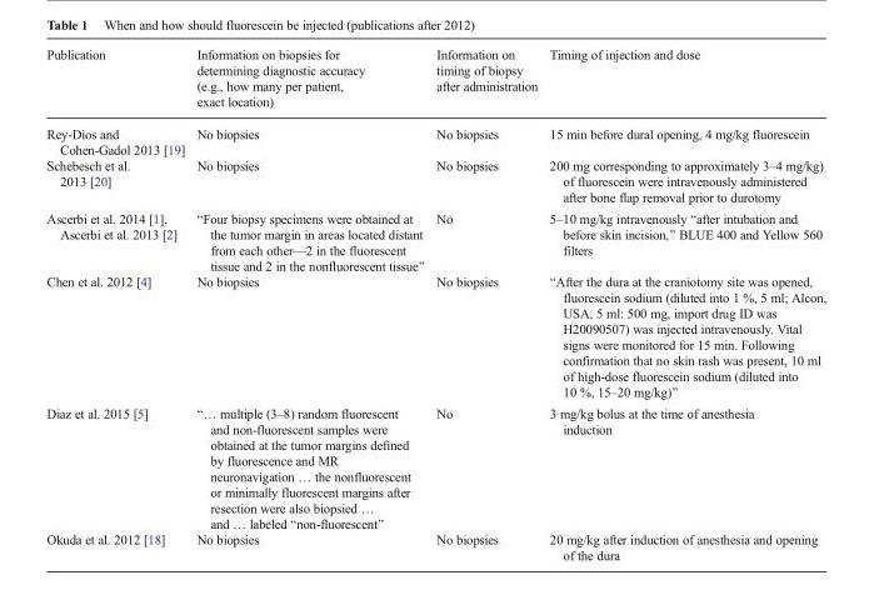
<table><thead><tr><td>Publication</td><td>Information on biopsies for determining diagnostic accuracy (e.g., how many per patient, exact location)</td><td>Information on timing of biopsy after administration</td><td>Timing of injection and dose</td></tr></thead><tbody><tr><td>Rey-Dios and Cohen-Gadol 2013 [19]</td><td>No biopsies</td><td>No biopsies</td><td>15 min before dural opening, 4 mg/kg fluorescein</td></tr><tr><td>Schebesch et al. 2013 [20]</td><td>No biopsies</td><td>No biopsies</td><td>200 mg corresponding to approximately 3–4 mg/kg) of fluorescein were intravenously administered after bone flap removal prior to durotomy</td></tr><tr><td>Ascerbi et al. 2014 [1], Ascerbi et al. 2013 [2]</td><td>“Four biopsy specimens were obtained at the tumor margin in areas located distant from each other—2 in the fluorescent tissue and 2 in the nonfluorescent tissue”</td><td>No</td><td>5–10 mg/kg intravenously “after intubation and before skin incision,” BLUE 400 and Yellow 560 filters</td></tr><tr><td>Chen et al. 2012 [4]</td><td>No biopsies</td><td>No biopsies</td><td>“After the dura at the craniotomy site was opened, fluorescein sodium (diluted into 1 %, 5 ml; Alcon, USA, 5 ml: 500 mg, import drug ID was H20090507) was injected intravenously. Vital signs were monitored for 15 min. Following confirmation that no skin rash was present, 10 ml of high-dose fluorescein sodium (diluted into 10 %, 15–20 mg/kg)”</td></tr><tr><td>Diaz et al. 2015 [5]</td><td>“… multiple (3–8) random fluorescent and non-fluorescent samples were obtained at the tumor margins defined by fluorescence and MR neuronavigation … the nonfluorescent or minimally fluorescent margins after resection were also biopsied … and … labeled “non-fluorescent”</td><td>No</td><td>3 mg/kg bolus at the time of anesthesia induction</td></tr><tr><td>Okuda et al. 2012 [18]</td><td>No biopsies</td><td>No biopsies</td><td>20 mg/kg after induction of anesthesia and opening of the dura</td></tr></tbody></table>